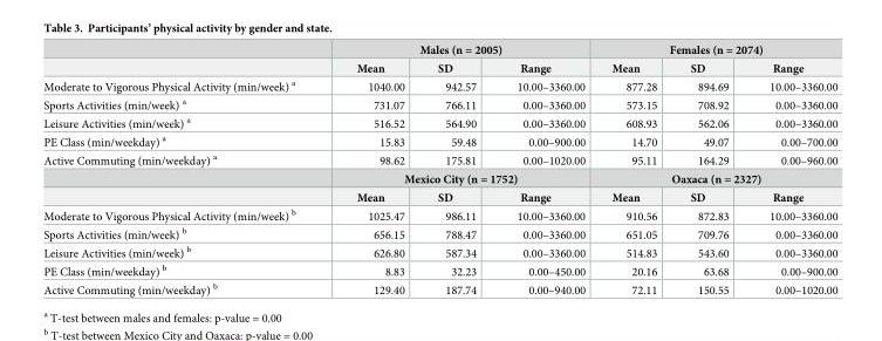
<table><thead><tr><td rowspan="2"></td><td colspan="3">Males (n = 2005)</td><td colspan="3">Females (n = 2074)</td></tr><tr><td>Mean</td><td>SD</td><td>Range</td><td>Mean</td><td>SD</td><td>Range</td></tr></thead><tbody><tr><td>Moderate to Vigorous Physical Activity (min/week) <sup>a</sup></td><td>1040.00</td><td>942.57</td><td>10.00–3360.00</td><td>877.28</td><td>894.69</td><td>10.00–3360.00</td></tr><tr><td>Sports Activities (min/week) <sup>a</sup></td><td>731.07</td><td>766.11</td><td>0.00–3360.00</td><td>573.15</td><td>708.92</td><td>0.00–3360.00</td></tr><tr><td>Leisure Activities (min/week) <sup>a</sup></td><td>516.52</td><td>564.90</td><td>0.00–3360.00</td><td>608.93</td><td>562.06</td><td>0.00–3360.00</td></tr><tr><td>PE Class (min/weekday) <sup>a</sup></td><td>15.83</td><td>59.48</td><td>0.00–900.00</td><td>14.70</td><td>49.07</td><td>0.00–700.00</td></tr><tr><td rowspan="3">Active Commuting (min/weekday) <sup>a</sup></td><td>98.62</td><td>175.81</td><td>0.00–1020.00</td><td>95.11</td><td>164.29</td><td>0.00–960.00</td></tr><tr><td colspan="3">Mexico City (n = 1752)</td><td colspan="3">Oaxaca (n = 2327)</td></tr><tr><td>Mean</td><td>SD</td><td>Range</td><td>Mean</td><td>SD</td><td>Range</td></tr><tr><td>Moderate to Vigorous Physical Activity (min/week) <sup>b</sup></td><td>1025.47</td><td>986.11</td><td>10.00–3360.00</td><td>910.56</td><td>872.83</td><td>10.00–3360.00</td></tr><tr><td>Sports Activities (min/week) <sup>b</sup></td><td>656.15</td><td>788.47</td><td>0.00–3360.00</td><td>651.05</td><td>709.76</td><td>0.00–3360.00</td></tr><tr><td>Leisure Activities (min/week) <sup>b</sup></td><td>626.80</td><td>587.34</td><td>0.00–3360.00</td><td>514.83</td><td>543.60</td><td>0.00–3360.00</td></tr><tr><td>PE Class (min/weekday) <sup>b</sup></td><td>8.83</td><td>32.23</td><td>0.00–450.00</td><td>20.16</td><td>63.68</td><td>0.00–900.00</td></tr><tr><td>Active Commuting (min/weekday) <sup>b</sup></td><td>129.40</td><td>187.74</td><td>0.00–940.00</td><td>72.11</td><td>150.55</td><td>0.00–1020.00</td></tr></tbody></table>